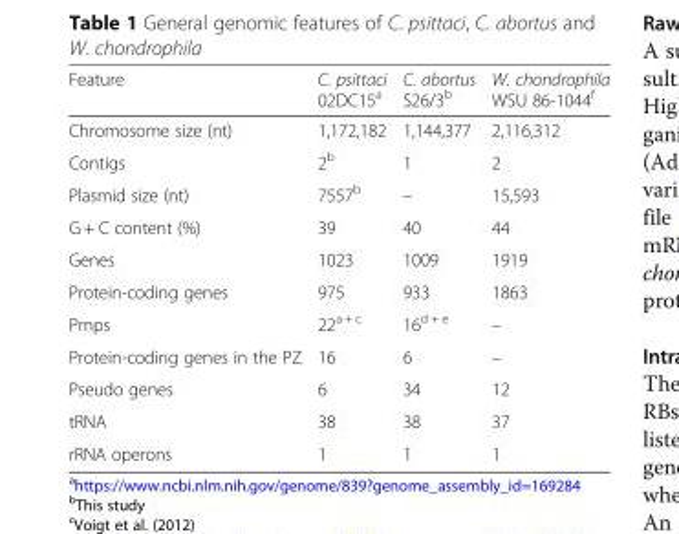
<table><thead><tr><td>Feature</td><td>C. psittaci 02DC15<sup>a</sup></td><td>C. abortus S26/3<sup>b</sup></td><td>W. chondrophila WSU 86-1044<sup>f</sup></td></tr></thead><tbody><tr><td>Chromosome size (nt)</td><td>1,172,182</td><td>1,144,377</td><td>2,116,312</td></tr><tr><td>Contigs</td><td>2<sup>b</sup></td><td>1</td><td>2</td></tr><tr><td>Plasmid size (nt)</td><td>7557<sup>b</sup></td><td>–</td><td>15,593</td></tr><tr><td>G + C content (%)</td><td>39</td><td>40</td><td>44</td></tr><tr><td>Genes</td><td>1023</td><td>1009</td><td>1919</td></tr><tr><td>Protein-coding genes</td><td>975</td><td>933</td><td>1863</td></tr><tr><td>Pmps</td><td>22<sup>a + c</sup></td><td>16<sup>d + e</sup></td><td>–</td></tr><tr><td>Protein-coding genes in the PZ</td><td>16</td><td>6</td><td>–</td></tr><tr><td>Pseudo genes</td><td>6</td><td>34</td><td>12</td></tr><tr><td>tRNA</td><td>38</td><td>38</td><td>37</td></tr><tr><td>rRNA operons</td><td>1</td><td>1</td><td>1</td></tr></tbody></table>